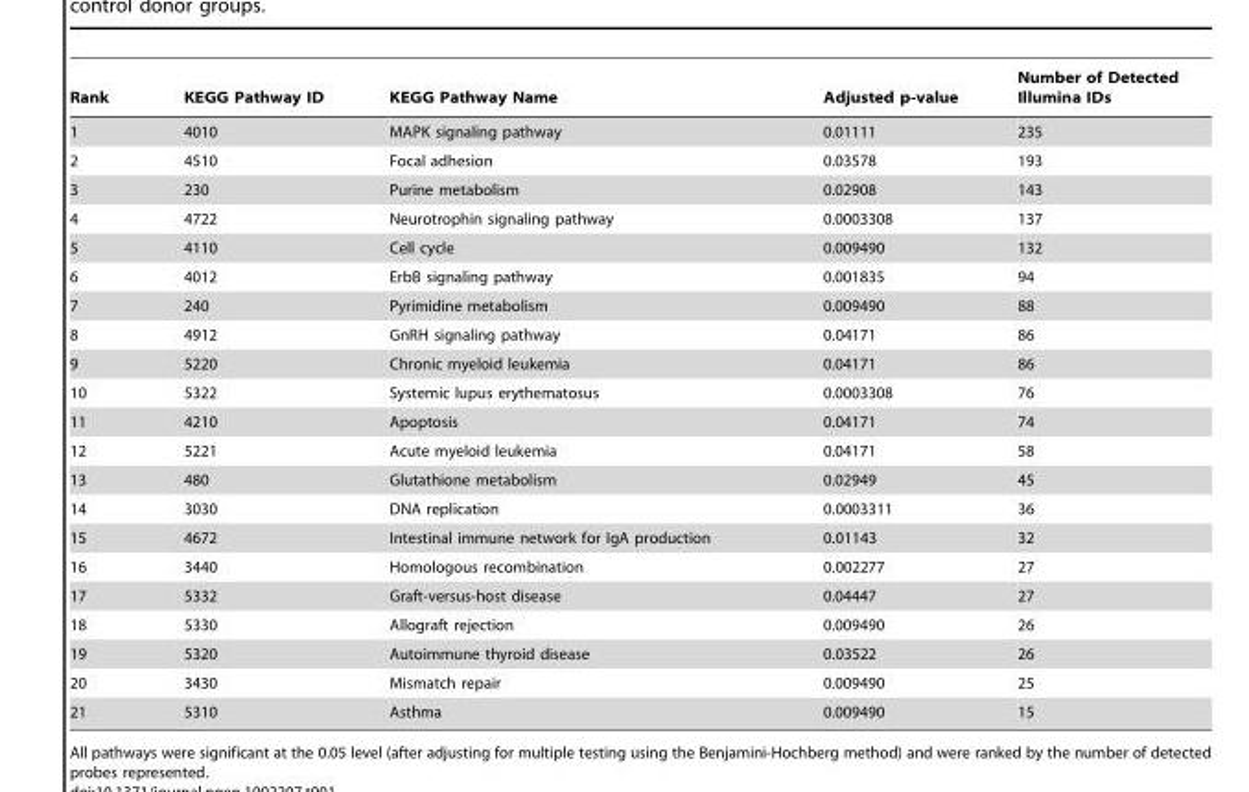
<table><thead><tr><td>Rank</td><td>KEGG Pathway ID</td><td>KEGG Pathway Name</td><td>Adjusted p-value</td><td>Number of Detected Illumina IDs</td></tr></thead><tbody><tr><td>1</td><td>4010</td><td>MAPK signaling pathway</td><td>0.01111</td><td>235</td></tr><tr><td>2</td><td>4510</td><td>Focal adhesion</td><td>0.03578</td><td>193</td></tr><tr><td>3</td><td>230</td><td>Purine metabolism</td><td>0.02908</td><td>143</td></tr><tr><td>4</td><td>4722</td><td>Neurotrophin signaling pathway</td><td>0.0003308</td><td>137</td></tr><tr><td>5</td><td>4110</td><td>Cell cycle</td><td>0.009490</td><td>132</td></tr><tr><td>6</td><td>4012</td><td>ErbB signaling pathway</td><td>0.001835</td><td>94</td></tr><tr><td>7</td><td>240</td><td>Pyrimidine metabolism</td><td>0.009490</td><td>88</td></tr><tr><td>8</td><td>4912</td><td>GnRH signaling pathway</td><td>0.04171</td><td>86</td></tr><tr><td>9</td><td>5220</td><td>Chronic myeloid leukemia</td><td>0.04171</td><td>86</td></tr><tr><td>10</td><td>5322</td><td>Systemic lupus erythematosus</td><td>0.0003308</td><td>76</td></tr><tr><td>11</td><td>4210</td><td>Apoptosis</td><td>0.04171</td><td>74</td></tr><tr><td>12</td><td>5221</td><td>Acute myeloid leukemia</td><td>0.04171</td><td>58</td></tr><tr><td>13</td><td>480</td><td>Glutathione metabolism</td><td>0.02949</td><td>45</td></tr><tr><td>14</td><td>3030</td><td>DNA replication</td><td>0.0003311</td><td>36</td></tr><tr><td>15</td><td>4672</td><td>Intestinal immune network for IgA production</td><td>0.01143</td><td>32</td></tr><tr><td>16</td><td>3440</td><td>Homologous recombination</td><td>0.002277</td><td>27</td></tr><tr><td>17</td><td>5332</td><td>Graft-versus-host disease</td><td>0.04447</td><td>27</td></tr><tr><td>18</td><td>5330</td><td>Allograft rejection</td><td>0.009490</td><td>26</td></tr><tr><td>19</td><td>5320</td><td>Autoimmune thyroid disease</td><td>0.03522</td><td>26</td></tr><tr><td>20</td><td>3430</td><td>Mismatch repair</td><td>0.009490</td><td>25</td></tr><tr><td>21</td><td>5310</td><td>Asthma</td><td>0.009490</td><td>15</td></tr></tbody></table>